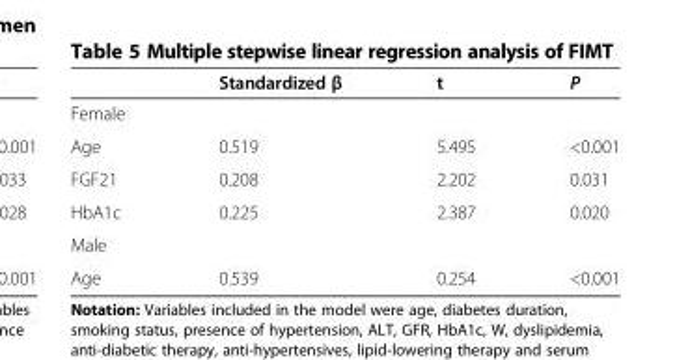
<table><thead><tr><td></td><td>Standardized β</td><td>t</td><td>P</td></tr></thead><tbody><tr><td colspan="4">Female</td></tr><tr><td>Age</td><td>0.519</td><td>5.495</td><td>&lt;0.001</td></tr><tr><td>FGF21</td><td>0.208</td><td>2.202</td><td>0.031</td></tr><tr><td>HbA1c</td><td>0.225</td><td>2.387</td><td>0.020</td></tr><tr><td colspan="4">Male</td></tr><tr><td>Age</td><td>0.539</td><td>0.254</td><td>&lt;0.001</td></tr></tbody></table>